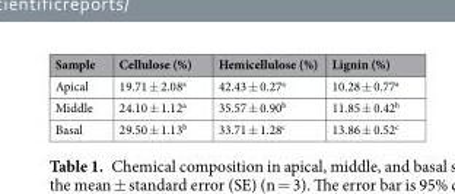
<table><thead><tr><td>Sample</td><td>Cellulose (%)</td><td>Hemicellulose (%)</td><td>Lignin (%)</td></tr></thead><tbody><tr><td>Apical</td><td>19.71 ± 2.08<sup>a</sup></td><td>42.43 ± 0.27<sup>a</sup></td><td>10.28 ± 0.77<sup>a</sup></td></tr><tr><td>Middle</td><td>24.10 ± 1.12<sup>a</sup></td><td>35.57 ± 0.90<sup>b</sup></td><td>11.85 ± 0.42<sup>b</sup></td></tr><tr><td>Basal</td><td>29.50 ± 1.13<sup>b</sup></td><td>33.71 ± 1.28<sup>c</sup></td><td>13.86 ± 0.52<sup>c</sup></td></tr></tbody></table>